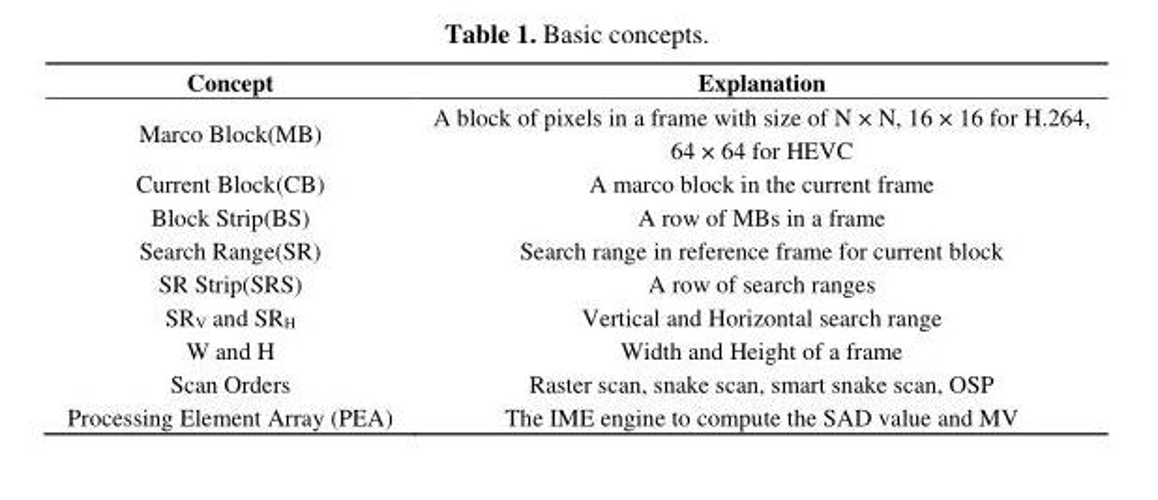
<table><thead><tr><td>Concept</td><td>Explanation</td></tr></thead><tbody><tr><td>Marco Block(MB)</td><td>A block of pixels in a frame with size of N × N, 16 × 16 for H.264, 64 × 64 for HEVC</td></tr><tr><td>Current Block(CB)</td><td>A marco block in the current frame</td></tr><tr><td>Block Strip(BS)</td><td>A row of MBs in a frame</td></tr><tr><td>Search Range(SR)</td><td>Search range in reference frame for current block</td></tr><tr><td>SR Strip(SRS)</td><td>A row of search ranges</td></tr><tr><td>SR<sub>V</sub> and SR<sub>H</sub></td><td>Vertical and Horizontal search range</td></tr><tr><td>W and H</td><td>Width and Height of a frame</td></tr><tr><td>Scan Orders</td><td>Raster scan, snake scan, smart snake scan, OSP</td></tr><tr><td>Processing Element Array (PEA)</td><td>The IME engine to compute the SAD value and MV</td></tr></tbody></table>